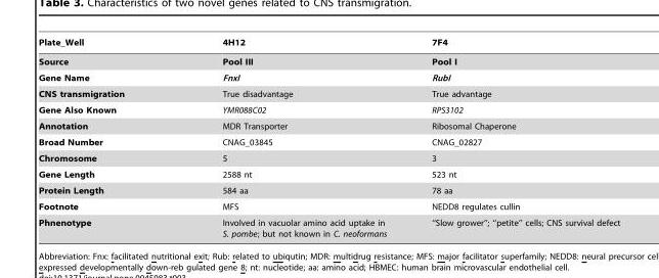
<table><thead><tr><td>Plate_Well</td><td>4H12</td><td>7F4</td></tr></thead><tbody><tr><td>Source</td><td>Pool III</td><td>Pool I</td></tr><tr><td>Gene Name</td><td>FnxI</td><td>RubI</td></tr><tr><td>CNS transmigration</td><td>True disadvantage</td><td>True advantage</td></tr><tr><td>Gene Also Known</td><td>YMR088C02</td><td>RPS3102</td></tr><tr><td>Annotation</td><td>MDR Transporter</td><td>Ribosomal Chaperone</td></tr><tr><td>Broad Number</td><td>CNAG_03845</td><td>CNAG_02827</td></tr><tr><td>Chromosome</td><td>5</td><td>3</td></tr><tr><td>Gene Length</td><td>2588 nt</td><td>523 nt</td></tr><tr><td>Protein Length</td><td>584 aa</td><td>78 aa</td></tr><tr><td>Footnote</td><td>MFS</td><td>NEDD8 regulates cullin</td></tr><tr><td>Phnenotype</td><td>Involved in vacuolar amino acid uptake in S. pombe; but not known in C. neoformans</td><td>‘‘Slow grower’’; ‘‘petite’’ cells; CNS survival defect</td></tr></tbody></table>